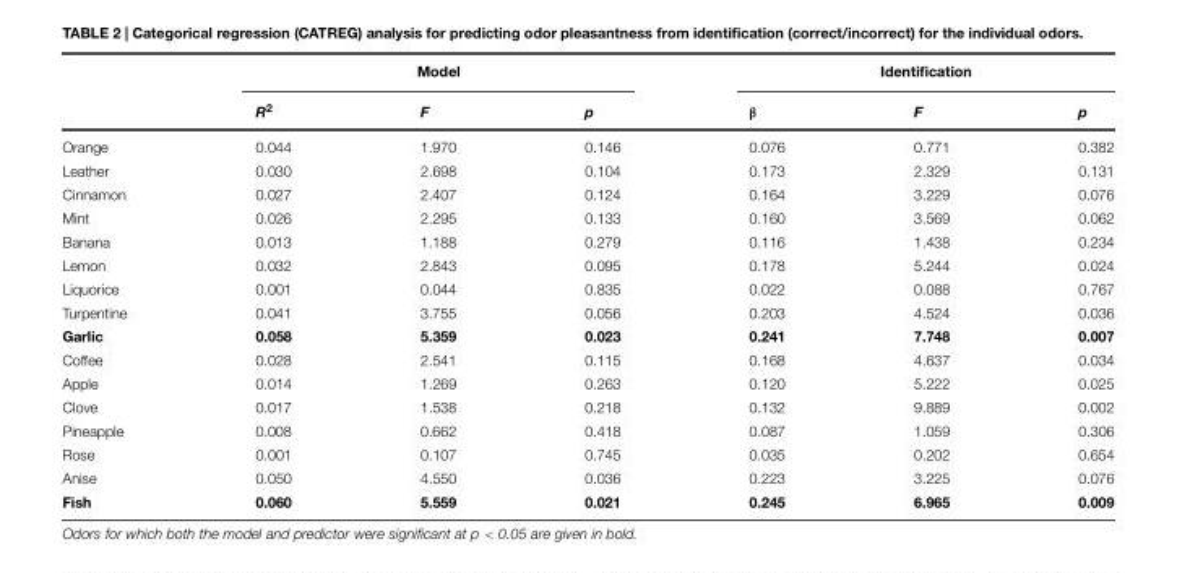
<table><thead><tr><td rowspan="2"></td><td colspan="3">Model</td><td colspan="3">Identification</td></tr><tr><td>R<sup>2</sup></td><td>F</td><td>p</td><td>β</td><td>F</td><td>p</td></tr></thead><tbody><tr><td>Orange</td><td>0.044</td><td>1.970</td><td>0.146</td><td>0.076</td><td>0.771</td><td>0.382</td></tr><tr><td>Leather</td><td>0.030</td><td>2.698</td><td>0.104</td><td>0.173</td><td>2.329</td><td>0.131</td></tr><tr><td>Cinnamon</td><td>0.027</td><td>2.407</td><td>0.124</td><td>0.164</td><td>3.229</td><td>0.076</td></tr><tr><td>Mint</td><td>0.026</td><td>2.295</td><td>0.133</td><td>0.160</td><td>3.569</td><td>0.062</td></tr><tr><td>Banana</td><td>0.013</td><td>1.188</td><td>0.279</td><td>0.116</td><td>1.438</td><td>0.234</td></tr><tr><td>Lemon</td><td>0.032</td><td>2.843</td><td>0.095</td><td>0.178</td><td>5.244</td><td>0.024</td></tr><tr><td>Liquorice</td><td>0.001</td><td>0.044</td><td>0.835</td><td>0.022</td><td>0.088</td><td>0.767</td></tr><tr><td>Turpentine</td><td>0.041</td><td>3.755</td><td>0.056</td><td>0.203</td><td>4.524</td><td>0.036</td></tr><tr><td>Garlic</td><td>0.058</td><td>5.359</td><td>0.023</td><td>0.241</td><td>7.748</td><td>0.007</td></tr><tr><td>Coffee</td><td>0.028</td><td>2.541</td><td>0.115</td><td>0.168</td><td>4.637</td><td>0.034</td></tr><tr><td>Apple</td><td>0.014</td><td>1.269</td><td>0.263</td><td>0.120</td><td>5.222</td><td>0.025</td></tr><tr><td>Clove</td><td>0.017</td><td>1.538</td><td>0.218</td><td>0.132</td><td>9.889</td><td>0.002</td></tr><tr><td>Pineapple</td><td>0.008</td><td>0.662</td><td>0.418</td><td>0.087</td><td>1.059</td><td>0.306</td></tr><tr><td>Rose</td><td>0.001</td><td>0.107</td><td>0.745</td><td>0.035</td><td>0.202</td><td>0.654</td></tr><tr><td>Anise</td><td>0.050</td><td>4.550</td><td>0.036</td><td>0.223</td><td>3.225</td><td>0.076</td></tr><tr><td>Fish</td><td>0.060</td><td>5.559</td><td>0.021</td><td>0.245</td><td>6.965</td><td>0.009</td></tr></tbody></table>